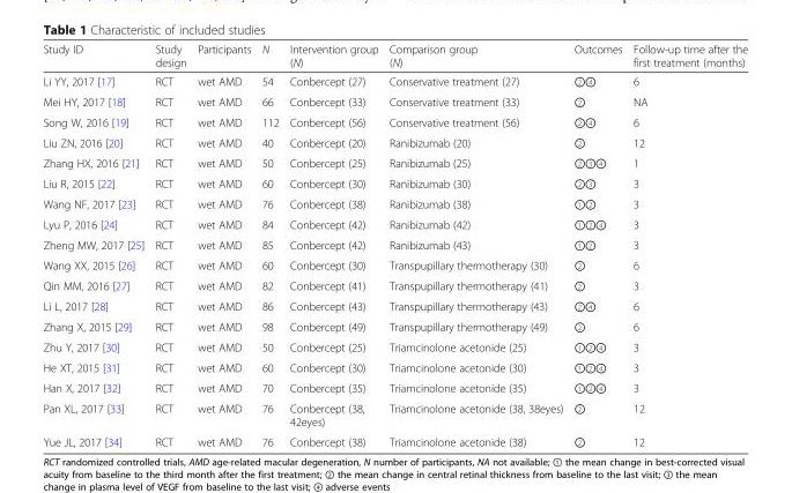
<table><thead><tr><td>Study ID</td><td>Study design</td><td>Participants</td><td>N</td><td>Intervention group (N)</td><td>Comparison group (N)</td><td>Outcomes</td><td>Follow-up time after the first treatment (months)</td></tr></thead><tbody><tr><td>Li YY, 2017 [17]</td><td>RCT</td><td>wet AMD</td><td>54</td><td>Conbercept (27)</td><td>Conservative treatment (27)</td><td>②④</td><td>6</td></tr><tr><td>Mei HY, 2017 [18]</td><td>RCT</td><td>wet AMD</td><td>66</td><td>Conbercept (33)</td><td>Conservative treatment (33)</td><td>②</td><td>NA</td></tr><tr><td>Song W, 2016 [19]</td><td>RCT</td><td>wet AMD</td><td>112</td><td>Conbercept (56)</td><td>Conservative treatment (56)</td><td>②④</td><td>6</td></tr><tr><td>Liu ZN, 2016 [20]</td><td>RCT</td><td>wet AMD</td><td>40</td><td>Conbercept (20)</td><td>Ranibizumab (20)</td><td>②</td><td>12</td></tr><tr><td>Zhang HX, 2016 [21]</td><td>RCT</td><td>wet AMD</td><td>50</td><td>Conbercept (25)</td><td>Ranibizumab (25)</td><td>②③④</td><td>1</td></tr><tr><td>Liu R, 2015 [22]</td><td>RCT</td><td>wet AMD</td><td>60</td><td>Conbercept (30)</td><td>Ranibizumab (30)</td><td>②③</td><td>3</td></tr><tr><td>Wang NF, 2017 [23]</td><td>RCT</td><td>wet AMD</td><td>76</td><td>Conbercept (38)</td><td>Ranibizumab (38)</td><td>①②</td><td>3</td></tr><tr><td>Lyu P, 2016 [24]</td><td>RCT</td><td>wet AMD</td><td>84</td><td>Conbercept (42)</td><td>Ranibizumab (42)</td><td>①②④</td><td>3</td></tr><tr><td>Zheng MW, 2017 [25]</td><td>RCT</td><td>wet AMD</td><td>85</td><td>Conbercept (42)</td><td>Ranibizumab (43)</td><td>①②</td><td>3</td></tr><tr><td>Wang XX, 2015 [26]</td><td>RCT</td><td>wet AMD</td><td>60</td><td>Conbercept (30)</td><td>Transpupillary thermotherapy (30)</td><td>②</td><td>6</td></tr><tr><td>Qin MM, 2016 [27]</td><td>RCT</td><td>wet AMD</td><td>82</td><td>Conbercept (41)</td><td>Transpupillary thermotherapy (41)</td><td>②</td><td>3</td></tr><tr><td>Li L, 2017 [28]</td><td>RCT</td><td>wet AMD</td><td>86</td><td>Conbercept (43)</td><td>Transpupillary thermotherapy (43)</td><td>②④</td><td>6</td></tr><tr><td>Zhang X, 2015 [29]</td><td>RCT</td><td>wet AMD</td><td>98</td><td>Conbercept (49)</td><td>Transpupillary thermotherapy (49)</td><td>②</td><td>6</td></tr><tr><td>Zhu Y, 2017 [30]</td><td>RCT</td><td>wet AMD</td><td>50</td><td>Conbercept (25)</td><td>Triamcinolone acetonide (25)</td><td>①②④</td><td>3</td></tr><tr><td>He XT, 2015 [31]</td><td>RCT</td><td>wet AMD</td><td>60</td><td>Conbercept (30)</td><td>Triamcinolone acetonide (30)</td><td>①②④</td><td>3</td></tr><tr><td>Han X, 2017 [32]</td><td>RCT</td><td>wet AMD</td><td>70</td><td>Conbercept (35)</td><td>Triamcinolone acetonide (35)</td><td>①②④</td><td>3</td></tr><tr><td>Pan XL, 2017 [33]</td><td>RCT</td><td>wet AMD</td><td>76</td><td>Conbercept (38, 42eyes)</td><td>Triamcinolone acetonide (38, 38eyes)</td><td>②</td><td>12</td></tr><tr><td>Yue JL, 2017 [34]</td><td>RCT</td><td>wet AMD</td><td>76</td><td>Conbercept (38)</td><td>Triamcinolone acetonide (38)</td><td>②</td><td>12</td></tr></tbody></table>